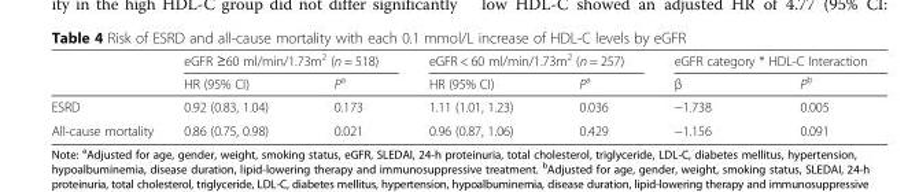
<table><thead><tr><td rowspan="2"></td><td colspan="2">eGFR ≥60 ml/min/1.73m<sup>2</sup> (n = 518)</td><td colspan="2">eGFR &lt; 60 ml/min/1.73m<sup>2</sup> (n = 257)</td><td colspan="2">eGFR category * HDL-C Interaction</td></tr><tr><td>HR (95% CI)</td><td>P<sup>a</sup></td><td>HR (95% CI)</td><td>P<sup>a</sup></td><td>β</td><td>P<sup>b</sup></td></tr></thead><tbody><tr><td>ESRD</td><td>0.92 (0.83, 1.04)</td><td>0.173</td><td>1.11 (1.01, 1.23)</td><td>0.036</td><td>−1.738</td><td>0.005</td></tr><tr><td>All-cause mortality</td><td>0.86 (0.75, 0.98)</td><td>0.021</td><td>0.96 (0.87, 1.06)</td><td>0.429</td><td>−1.156</td><td>0.091</td></tr></tbody></table>